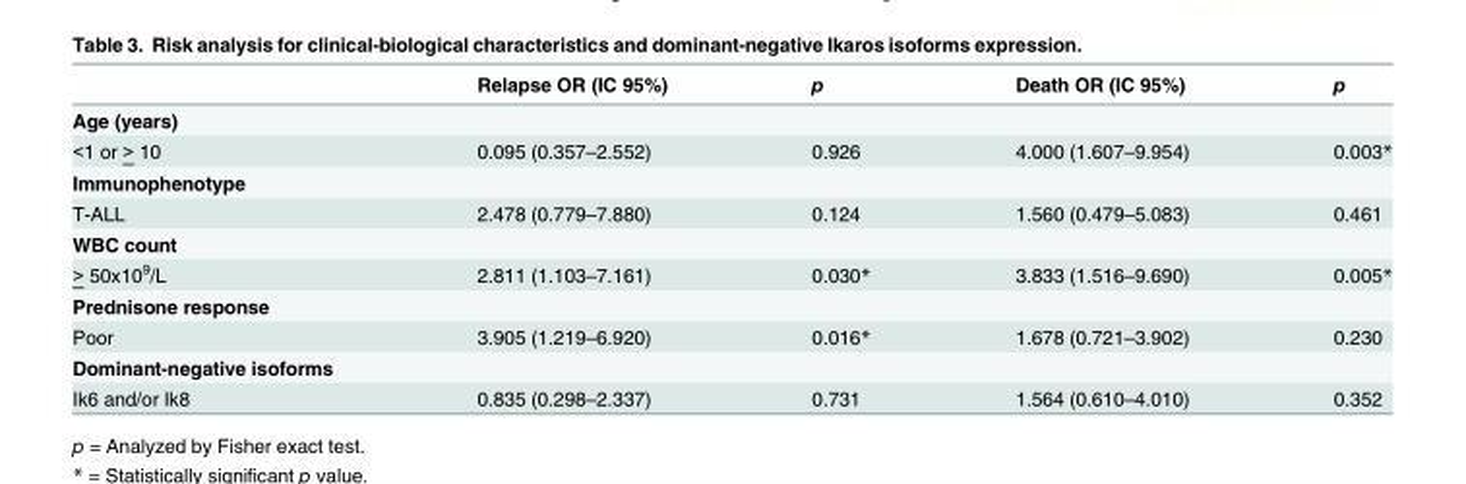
<table><thead><tr><td></td><td>Relapse OR (IC 95%)</td><td>p</td><td>Death OR (IC 95%)</td><td>p</td></tr></thead><tbody><tr><td colspan="5">Age (years)</td></tr><tr><td>&lt;1 or &gt; 10</td><td>0.095 (0.357–2.552)</td><td>0.926</td><td>4.000 (1.607–9.954)</td><td>0.003*</td></tr><tr><td colspan="5">Immunophenotype</td></tr><tr><td>T-ALL</td><td>2.478 (0.779–7.880)</td><td>0.124</td><td>1.560 (0.479–5.083)</td><td>0.461</td></tr><tr><td colspan="5">WBC count</td></tr><tr><td>&gt; 50x10<sup>9</sup>/L</td><td>2.811 (1.103–7.161)</td><td>0.030*</td><td>3.833 (1.516–9.690)</td><td>0.005*</td></tr><tr><td colspan="5">Prednisone response</td></tr><tr><td>Poor</td><td>3.905 (1.219–6.920)</td><td>0.016*</td><td>1.678 (0.721–3.902)</td><td>0.230</td></tr><tr><td colspan="5">Dominant-negative isoforms</td></tr><tr><td>Ik6 and/or Ik8</td><td>0.835 (0.298–2.337)</td><td>0.731</td><td>1.564 (0.610–4.010)</td><td>0.352</td></tr></tbody></table>